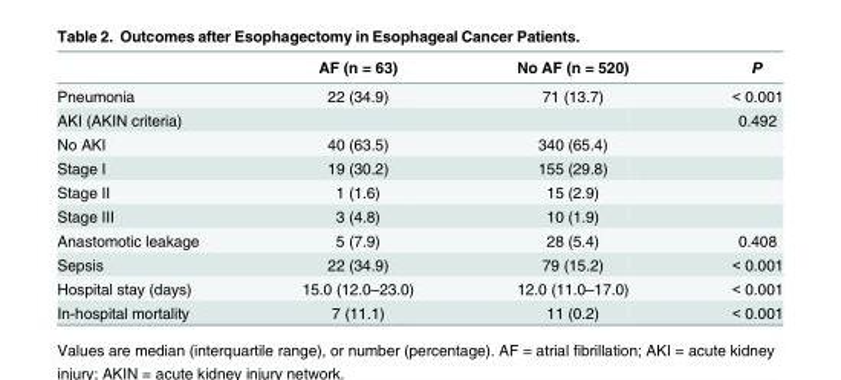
<table><thead><tr><td></td><td>AF (n = 63)</td><td>No AF (n = 520)</td><td>P</td></tr></thead><tbody><tr><td>Pneumonia</td><td>22 (34.9)</td><td>71 (13.7)</td><td>&lt; 0.001</td></tr><tr><td>AKI (AKIN criteria)</td><td></td><td></td><td>0.492</td></tr><tr><td>No AKI</td><td>40 (63.5)</td><td>340 (65.4)</td><td></td></tr><tr><td>Stage I</td><td>19 (30.2)</td><td>155 (29.8)</td><td></td></tr><tr><td>Stage II</td><td>1 (1.6)</td><td>15 (2.9)</td><td></td></tr><tr><td>Stage III</td><td>3 (4.8)</td><td>10 (1.9)</td><td></td></tr><tr><td>Anastomotic leakage</td><td>5 (7.9)</td><td>28 (5.4)</td><td>0.408</td></tr><tr><td>Sepsis</td><td>22 (34.9)</td><td>79 (15.2)</td><td>&lt; 0.001</td></tr><tr><td>Hospital stay (days)</td><td>15.0 (12.0–23.0)</td><td>12.0 (11.0–17.0)</td><td>&lt; 0.001</td></tr><tr><td>In-hospital mortality</td><td>7 (11.1)</td><td>11 (0.2)</td><td>&lt; 0.001</td></tr></tbody></table>